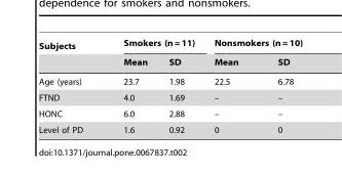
<table><thead><tr><td rowspan="2">Subjects</td><td colspan="2">Smokers (n = 11)</td><td colspan="2">Nonsmokers (n = 10)</td></tr><tr><td>Mean</td><td>SD</td><td>Mean</td><td>SD</td></tr></thead><tbody><tr><td>Age (years)</td><td>23.7</td><td>1.98</td><td>22.5</td><td>6.78</td></tr><tr><td>FTND</td><td>4.0</td><td>1.69</td><td>–</td><td>–</td></tr><tr><td>HONC</td><td>6.0</td><td>2.88</td><td>–</td><td>–</td></tr><tr><td>Level of PD</td><td>1.6</td><td>0.92</td><td>0</td><td>0</td></tr></tbody></table>